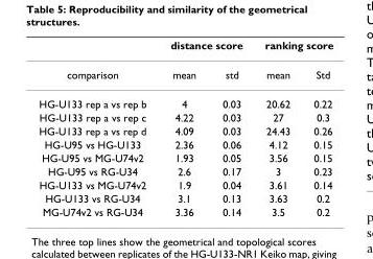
<table><thead><tr><td rowspan="2">comparison</td><td colspan="2">distance score</td><td colspan="2">ranking score</td></tr><tr><td>mean</td><td>std</td><td>mean</td><td>Std</td></tr></thead><tbody><tr><td>HG-U133 rep a vs rep b</td><td>4</td><td>0.03</td><td>20.62</td><td>0.22</td></tr><tr><td>HG-U133 rep a vs rep c</td><td>4.22</td><td>0.03</td><td>27</td><td>0.3</td></tr><tr><td>HG-U133 rep a vs rep d</td><td>4.09</td><td>0.03</td><td>24.43</td><td>0.26</td></tr><tr><td>HG-U95 vs HG-U133</td><td>2.36</td><td>0.06</td><td>4.12</td><td>0.15</td></tr><tr><td>HG-U95 vs MG-U74v2</td><td>1.93</td><td>0.05</td><td>3.56</td><td>0.15</td></tr><tr><td>HG-U95 vs RG-U34</td><td>2.6</td><td>0.17</td><td>3</td><td>0.23</td></tr><tr><td>HG-U133 vs MG-U74v2</td><td>1.9</td><td>0.04</td><td>3.61</td><td>0.14</td></tr><tr><td>HG-U133 vs RG-U34</td><td>3.1</td><td>0.13</td><td>3.63</td><td>0.2</td></tr><tr><td>MG-U74v2 vs RG-U34</td><td>3.36</td><td>0.14</td><td>3.5</td><td>0.2</td></tr></tbody></table>